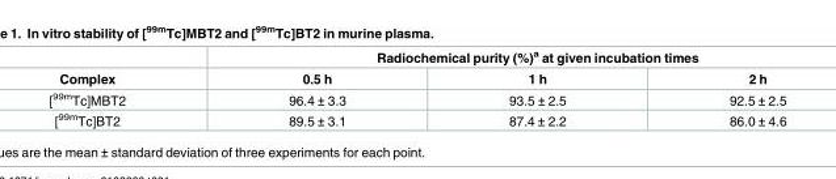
<table><thead><tr><td rowspan="2">Complex</td><td colspan="3">Radiochemical purity (%)<sup>a</sup> at given incubation times</td></tr><tr><td>0.5 h</td><td>1 h</td><td>2 h</td></tr></thead><tbody><tr><td>[<sup>99m</sup>Tc]MBT2</td><td>96.4 ± 3.3</td><td>93.5 ± 2.5</td><td>92.5 ± 2.5</td></tr><tr><td>[<sup>99m</sup>Tc]BT2</td><td>89.5 ± 3.1</td><td>87.4 ± 2.2</td><td>86.0 ± 4.6</td></tr></tbody></table>